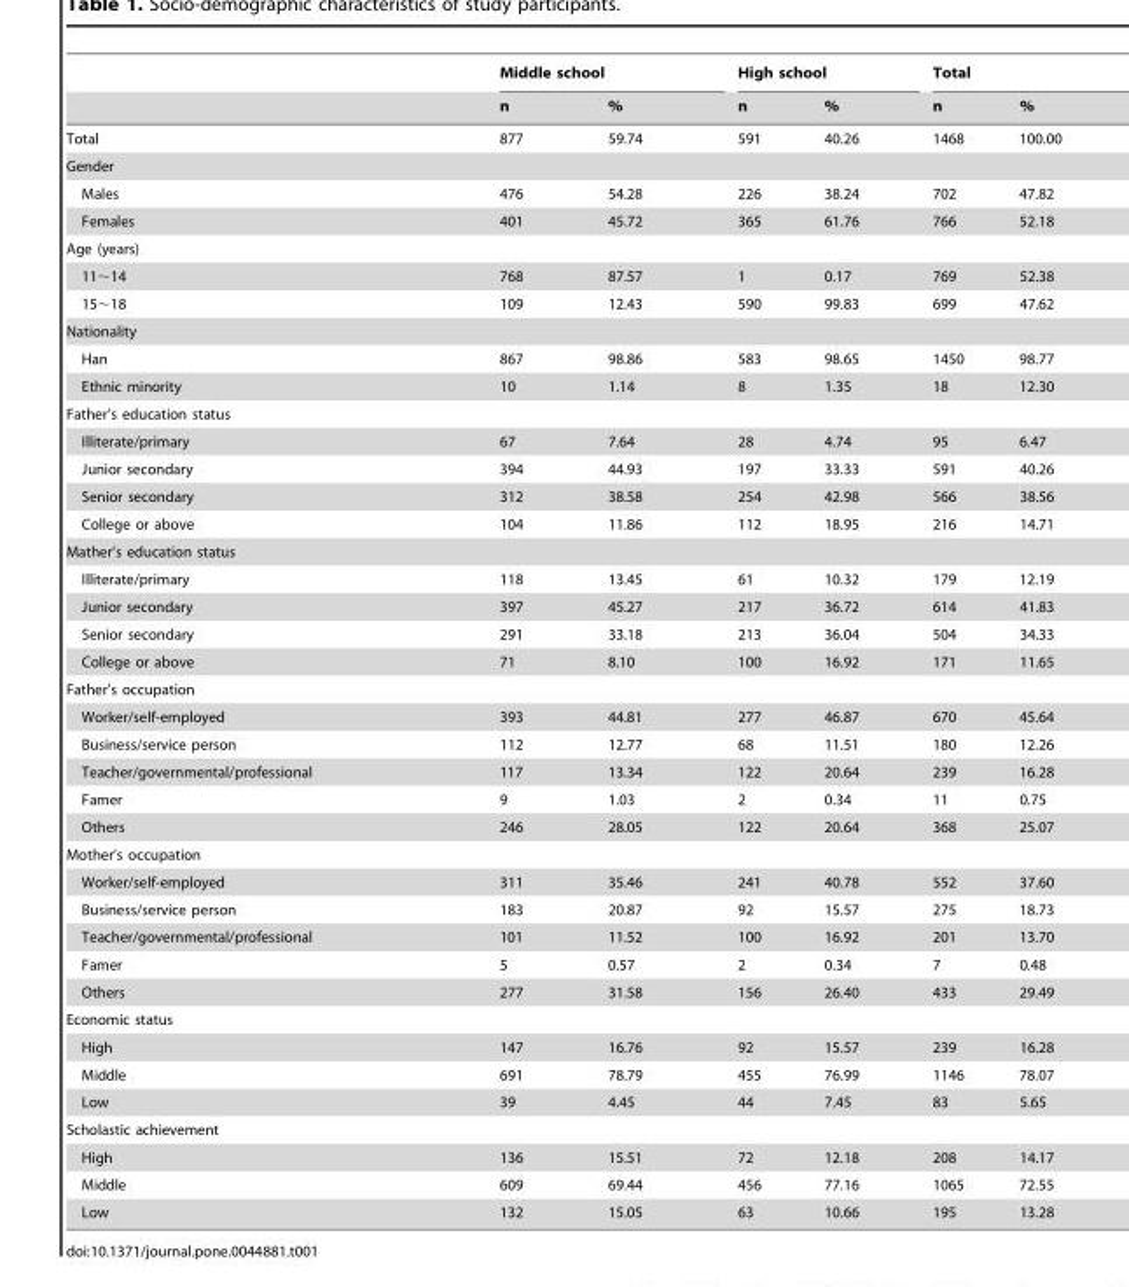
<table><thead><tr><td rowspan="2"></td><td colspan="2">Middle school</td><td colspan="2">High school</td><td colspan="2">Total</td></tr><tr><td>n</td><td>%</td><td>n</td><td>%</td><td>n</td><td>%</td></tr></thead><tbody><tr><td>Total</td><td>877</td><td>59.74</td><td>591</td><td>40.26</td><td>1468</td><td>100.00</td></tr><tr><td colspan="7">Gender</td></tr><tr><td>Males</td><td>476</td><td>54.28</td><td>226</td><td>38.24</td><td>702</td><td>47.82</td></tr><tr><td>Females</td><td>401</td><td>45.72</td><td>365</td><td>61.76</td><td>766</td><td>52.18</td></tr><tr><td colspan="7">Age (years)</td></tr><tr><td>11∼14</td><td>768</td><td>87.57</td><td>1</td><td>0.17</td><td>769</td><td>52.38</td></tr><tr><td>15∼18</td><td>109</td><td>12.43</td><td>590</td><td>99.83</td><td>699</td><td>47.62</td></tr><tr><td colspan="7">Nationality</td></tr><tr><td>Han</td><td>867</td><td>98.86</td><td>583</td><td>98.65</td><td>1450</td><td>98.77</td></tr><tr><td>Ethnic minority</td><td>10</td><td>1.14</td><td>8</td><td>1.35</td><td>18</td><td>12.30</td></tr><tr><td colspan="7">Father’s education status</td></tr><tr><td>Illiterate/primary</td><td>67</td><td>7.64</td><td>28</td><td>4.74</td><td>95</td><td>6.47</td></tr><tr><td>Junior secondary</td><td>394</td><td>44.93</td><td>197</td><td>33.33</td><td>591</td><td>40.26</td></tr><tr><td>Senior secondary</td><td>312</td><td>38.58</td><td>254</td><td>42.98</td><td>566</td><td>38.56</td></tr><tr><td>College or above</td><td>104</td><td>11.86</td><td>112</td><td>18.95</td><td>216</td><td>14.71</td></tr><tr><td colspan="7">Mather’s education status</td></tr><tr><td>Illiterate/primary</td><td>118</td><td>13.45</td><td>61</td><td>10.32</td><td>179</td><td>12.19</td></tr><tr><td>Junior secondary</td><td>397</td><td>45.27</td><td>217</td><td>36.72</td><td>614</td><td>41.83</td></tr><tr><td>Senior secondary</td><td>291</td><td>33.18</td><td>213</td><td>36.04</td><td>504</td><td>34.33</td></tr><tr><td>College or above</td><td>71</td><td>8.10</td><td>100</td><td>16.92</td><td>171</td><td>11.65</td></tr><tr><td colspan="7">Father’s occupation</td></tr><tr><td>Worker/self-employed</td><td>393</td><td>44.81</td><td>277</td><td>46.87</td><td>670</td><td>45.64</td></tr><tr><td>Business/service person</td><td>112</td><td>12.77</td><td>68</td><td>11.51</td><td>180</td><td>12.26</td></tr><tr><td>Teacher/governmental/professional</td><td>117</td><td>13.34</td><td>122</td><td>20.64</td><td>239</td><td>16.28</td></tr><tr><td>Famer</td><td>9</td><td>1.03</td><td>2</td><td>0.34</td><td>11</td><td>0.75</td></tr><tr><td>Others</td><td>246</td><td>28.05</td><td>122</td><td>20.64</td><td>368</td><td>25.07</td></tr><tr><td colspan="7">Mother’s occupation</td></tr><tr><td>Worker/self-employed</td><td>311</td><td>35.46</td><td>241</td><td>40.78</td><td>552</td><td>37.60</td></tr><tr><td>Business/service person</td><td>183</td><td>20.87</td><td>92</td><td>15.57</td><td>275</td><td>18.73</td></tr><tr><td>Teacher/governmental/professional</td><td>101</td><td>11.52</td><td>100</td><td>16.92</td><td>201</td><td>13.70</td></tr><tr><td>Famer</td><td>5</td><td>0.57</td><td>2</td><td>0.34</td><td>7</td><td>0.48</td></tr><tr><td>Others</td><td>277</td><td>31.58</td><td>156</td><td>26.40</td><td>433</td><td>29.49</td></tr><tr><td colspan="7">Economic status</td></tr><tr><td>High</td><td>147</td><td>16.76</td><td>92</td><td>15.57</td><td>239</td><td>16.28</td></tr><tr><td>Middle</td><td>691</td><td>78.79</td><td>455</td><td>76.99</td><td>1146</td><td>78.07</td></tr><tr><td>Low</td><td>39</td><td>4.45</td><td>44</td><td>7.45</td><td>83</td><td>5.65</td></tr><tr><td colspan="7">Scholastic achievement</td></tr><tr><td>High</td><td>136</td><td>15.51</td><td>72</td><td>12.18</td><td>208</td><td>14.17</td></tr><tr><td>Middle</td><td>609</td><td>69.44</td><td>456</td><td>77.16</td><td>1065</td><td>72.55</td></tr><tr><td>Low</td><td>132</td><td>15.05</td><td>63</td><td>10.66</td><td>195</td><td>13.28</td></tr></tbody></table>